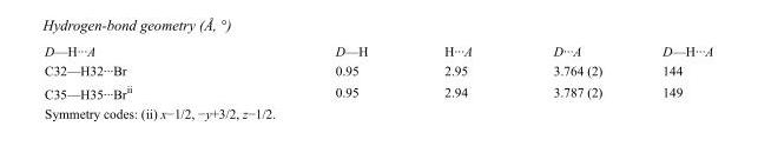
<table><tbody><tr><td>D—H···A</td><td>D—H</td><td>H···A</td><td>D···A</td><td>D—H···A</td></tr><tr><td>C32—H32···Br</td><td>0.95</td><td>2.95</td><td>3.764 (2)</td><td>144</td></tr><tr><td>C35—H35···Br<sup>ii</sup></td><td>0.95</td><td>2.94</td><td>3.787 (2)</td><td>149</td></tr></tbody></table>